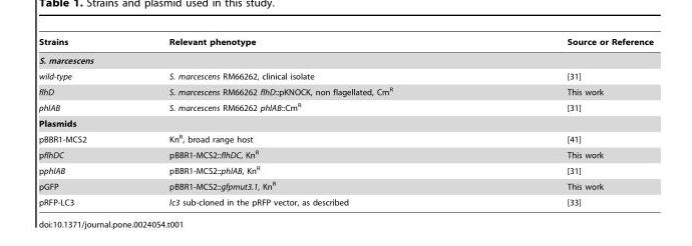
<table><thead><tr><td>Strains</td><td>Relevant phenotype</td><td>Source or Reference</td></tr></thead><tbody><tr><td colspan="3">S. marcescens</td></tr><tr><td>wild-type</td><td>S. marcescens RM66262, clinical isolate</td><td>[31]</td></tr><tr><td>flhD</td><td>S. marcescens RM66262 flhD::pKNOCK, non flagellated, Cm<sup>R</sup></td><td>This work</td></tr><tr><td>phlAB</td><td>S. marcescens RM66262 phlAB::Cm<sup>R</sup></td><td>[31]</td></tr><tr><td colspan="3">Plasmids</td></tr><tr><td>pBBR1-MCS2</td><td>Kn<sup>R</sup>, broad range host</td><td>[41]</td></tr><tr><td>pflhDC</td><td>pBBR1-MCS2::flhDC, Kn<sup>R</sup></td><td>This work</td></tr><tr><td>pphlAB</td><td>pBBR1-MCS2::phlAB, Kn<sup>R</sup></td><td>[31]</td></tr><tr><td>pGFP</td><td>pBBR1-MCS2::gfpmut3.1, Kn<sup>R</sup></td><td>This work</td></tr><tr><td>pRFP-LC3</td><td>lc3 sub-cloned in the pRFP vector, as described</td><td>[33]</td></tr></tbody></table>